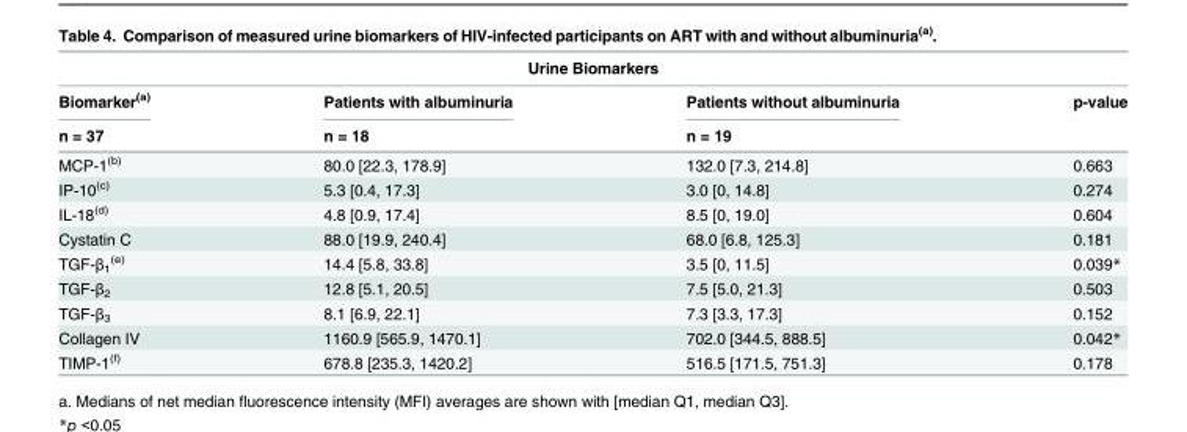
<table><thead><tr><td colspan="4">Urine Biomarkers</td></tr><tr><td rowspan="2">Biomarker<sup>(a)</sup> n = 37</td><td rowspan="2">Patients with albuminuria n = 18</td><td rowspan="2">Patients without albuminuria n = 19</td><td rowspan="2">p-value</td></tr><tr></tr></thead><tbody><tr><td>MCP-1<sup>(b)</sup></td><td>80.0 [22.3, 178.9]</td><td>132.0 [7.3, 214.8]</td><td>0.663</td></tr><tr><td>IP-10<sup>(c)</sup></td><td>5.3 [0.4, 17.3]</td><td>3.0 [0, 14.8]</td><td>0.274</td></tr><tr><td>IL-18<sup>(d)</sup></td><td>4.8 [0.9, 17.4]</td><td>8.5 [0, 19.0]</td><td>0.604</td></tr><tr><td>Cystatin C</td><td>88.0 [19.9, 240.4]</td><td>68.0 [6.8, 125.3]</td><td>0.181</td></tr><tr><td>TGF-β<sub>1</sub> <sup>(e)</sup></td><td>14.4 [5.8, 33.8]</td><td>3.5 [0, 11.5]</td><td>0.039*</td></tr><tr><td>TGF-β<sub>2</sub></td><td>12.8 [5.1, 20.5]</td><td>7.5 [5.0, 21.3]</td><td>0.503</td></tr><tr><td>TGF-β<sub>3</sub></td><td>8.1 [6.9, 22.1]</td><td>7.3 [3.3, 17.3]</td><td>0.152</td></tr><tr><td>Collagen IV</td><td>1160.9 [565.9, 1470.1]</td><td>702.0 [344.5, 888.5]</td><td>0.042*</td></tr><tr><td>TIMP-1<sup>(f)</sup></td><td>678.8 [235.3, 1420.2]</td><td>516.5 [171.5, 751.3]</td><td>0.178</td></tr></tbody></table>